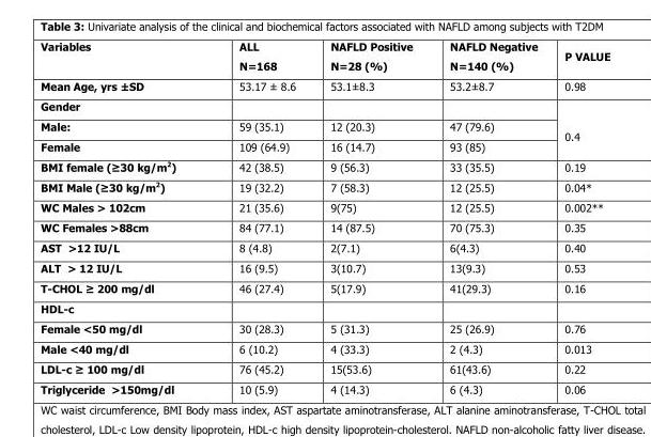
<table><thead><tr><td>Variables</td><td>ALL N=168</td><td>NAFLD Positive N=28 (%)</td><td>NAFLD Negative N=140 (%)</td><td>P VALUE</td></tr></thead><tbody><tr><td>Mean Age, yrs ±SD</td><td>53.17 ± 8.6</td><td>53.1±8.3</td><td>53.2±8.7</td><td>0.98</td></tr><tr><td colspan="4">Gender</td><td rowspan="3">0.4</td></tr><tr><td>Male:</td><td>59 (35.1)</td><td>12 (20.3)</td><td>47 (79.6)</td></tr><tr><td>Female</td><td>109 (64.9)</td><td>16 (14.7)</td><td>93 (85)</td></tr><tr><td>BMI female (≥30 kg/m<sup>2</sup>)</td><td>42 (38.5)</td><td>9 (56.3)</td><td>33 (35.5)</td><td>0.19</td></tr><tr><td>BMI Male (≥30 kg/m<sup>2</sup>)</td><td>19 (32.2)</td><td>7 (58.3)</td><td>12 (25.5)</td><td>0.04*</td></tr><tr><td>WC Males &gt; 102cm</td><td>21 (35.6)</td><td>9(75)</td><td>12 (25.5)</td><td>0.002**</td></tr><tr><td>WC Females &gt;88cm</td><td>84 (77.1)</td><td>14 (87.5)</td><td>70 (75.3)</td><td>0.35</td></tr><tr><td>AST &gt;12 IU/L</td><td>8 (4.8)</td><td>2(7.1)</td><td>6(4.3)</td><td>0.40</td></tr><tr><td>ALT &gt; 12 IU/L</td><td>16 (9.5)</td><td>3(10.7)</td><td>13(9.3)</td><td>0.53</td></tr><tr><td>T-CHOL ≥ 200 mg/dl</td><td>46 (27.4)</td><td>5(17.9)</td><td>41(29.3)</td><td>0.16</td></tr><tr><td colspan="5">HDL-c</td></tr><tr><td>Female &lt;50 mg/dl</td><td>30 (28.3)</td><td>5 (31.3)</td><td>25 (26.9)</td><td>0.76</td></tr><tr><td>Male &lt;40 mg/dl</td><td>6 (10.2)</td><td>4 (33.3)</td><td>2 (4.3)</td><td>0.013</td></tr><tr><td>LDL-c ≥ 100 mg/dl</td><td>76 (45.2)</td><td>15(53.6)</td><td>61(43.6)</td><td>0.22</td></tr><tr><td>Triglyceride &gt;150mg/dl</td><td>10 (5.9)</td><td>4 (14.3)</td><td>6 (4.3)</td><td>0.06</td></tr></tbody></table>